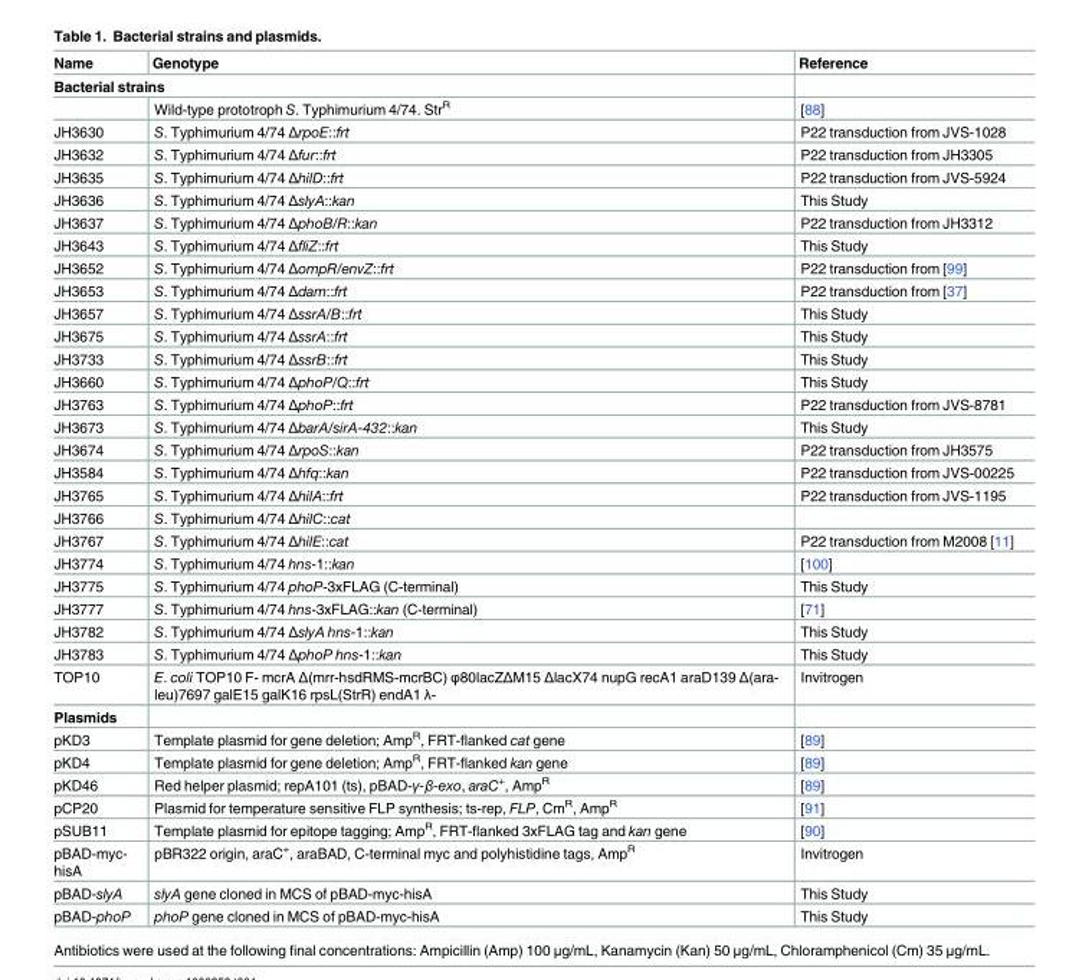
<table><thead><tr><td>Name</td><td>Genotype</td><td>Reference</td></tr></thead><tbody><tr><td colspan="3">Bacterial strains</td></tr><tr><td></td><td>Wild-type prototroph S. Typhimurium 4/74. Str<sup>R</sup></td><td>[88]</td></tr><tr><td>JH3630</td><td>S. Typhimurium 4/74 ΔrpoE::frt</td><td>P22 transduction from JVS-1028</td></tr><tr><td>JH3632</td><td>S. Typhimurium 4/74 Δfur::frt</td><td>P22 transduction from JH3305</td></tr><tr><td>JH3635</td><td>S. Typhimurium 4/74 ΔhilD::frt</td><td>P22 transduction from JVS-5924</td></tr><tr><td>JH3636</td><td>S. Typhimurium 4/74 ΔslyA::kan</td><td>This Study</td></tr><tr><td>JH3637</td><td>S. Typhimurium 4/74 ΔphoB/R::kan</td><td>P22 transduction from JH3312</td></tr><tr><td>JH3643</td><td>S. Typhimurium 4/74 ΔfliZ::frt</td><td>This Study</td></tr><tr><td>JH3652</td><td>S. Typhimurium 4/74 ΔompR/envZ::frt</td><td>P22 transduction from [99]</td></tr><tr><td>JH3653</td><td>S. Typhimurium 4/74 Δdam::frt</td><td>P22 transduction from [37]</td></tr><tr><td>JH3657</td><td>S. Typhimurium 4/74 ΔssrA/B::frt</td><td>This Study</td></tr><tr><td>JH3675</td><td>S. Typhimurium 4/74 ΔssrA::frt</td><td>This Study</td></tr><tr><td>JH3733</td><td>S. Typhimurium 4/74 ΔssrB::frt</td><td>This Study</td></tr><tr><td>JH3660</td><td>S. Typhimurium 4/74 ΔphoP/Q::frt</td><td>This Study</td></tr><tr><td>JH3763</td><td>S. Typhimurium 4/74 ΔphoP::frt</td><td>P22 transduction from JVS-8781</td></tr><tr><td>JH3673</td><td>S. Typhimurium 4/74 ΔbarA/sirA-432::kan</td><td>This Study</td></tr><tr><td>JH3674</td><td>S. Typhimurium 4/74 ΔrpoS::kan</td><td>P22 transduction from JH3575</td></tr><tr><td>JH3584</td><td>S. Typhimurium 4/74 Δhfq::kan</td><td>P22 transduction from JVS-00225</td></tr><tr><td>JH3765</td><td>S. Typhimurium 4/74 ΔhilA::frt</td><td>P22 transduction from JVS-1195</td></tr><tr><td>JH3766</td><td>S. Typhimurium 4/74 ΔhilC::cat</td><td></td></tr><tr><td>JH3767</td><td>S. Typhimurium 4/74 ΔhilE::cat</td><td>P22 transduction from M2008 [11]</td></tr><tr><td>JH3774</td><td>S. Typhimurium 4/74 hns-1::kan</td><td>[100]</td></tr><tr><td>JH3775</td><td>S. Typhimurium 4/74 phoP-3xFLAG (C-terminal)</td><td>This Study</td></tr><tr><td>JH3777</td><td>S. Typhimurium 4/74 hns-3xFLAG::kan (C-terminal)</td><td>[71]</td></tr><tr><td>JH3782</td><td>S. Typhimurium 4/74 ΔslyA hns-1::kan</td><td>This Study</td></tr><tr><td>JH3783</td><td>S. Typhimurium 4/74 ΔphoP hns-1::kan</td><td>This Study</td></tr><tr><td>TOP10</td><td>E. coli TOP10 F- mcrA Δ(mrr-hsdRMS-mcrBC) φ80lacZΔM15 ΔlacX74 nupG recA1 araD139 Δ(ara- leu)7697 galE15 galK16 rpsL(StrR) endA1 λ-</td><td>Invitrogen</td></tr><tr><td colspan="3">Plasmids</td></tr><tr><td>pKD3</td><td>Template plasmid for gene deletion; Amp<sup>R</sup>, FRT-flanked cat gene</td><td>[89]</td></tr><tr><td>pKD4</td><td>Template plasmid for gene deletion; Amp<sup>R</sup>, FRT-flanked kan gene</td><td>[89]</td></tr><tr><td>pKD46</td><td>Red helper plasmid; repA101 (ts), pBAD-γ-β-exo, araC<sup>+</sup>, Amp<sup>R</sup></td><td>[89]</td></tr><tr><td>pCP20</td><td>Plasmid for temperature sensitive FLP synthesis; ts-rep, FLP, Cm<sup>R</sup>, Amp<sup>R</sup></td><td>[91]</td></tr><tr><td>pSUB11</td><td>Template plasmid for epitope tagging; Amp<sup>R</sup>, FRT-flanked 3xFLAG tag and kan gene</td><td>[90]</td></tr><tr><td>pBAD-myc- hisA</td><td>pBR322 origin, araC<sup>+</sup>, araBAD, C-terminal myc and polyhistidine tags, Amp<sup>R</sup></td><td>Invitrogen</td></tr><tr><td>pBAD-slyA</td><td>slyA gene cloned in MCS of pBAD-myc-hisA</td><td>This Study</td></tr><tr><td>pBAD-phoP</td><td>phoP gene cloned in MCS of pBAD-myc-hisA</td><td>This Study</td></tr></tbody></table>